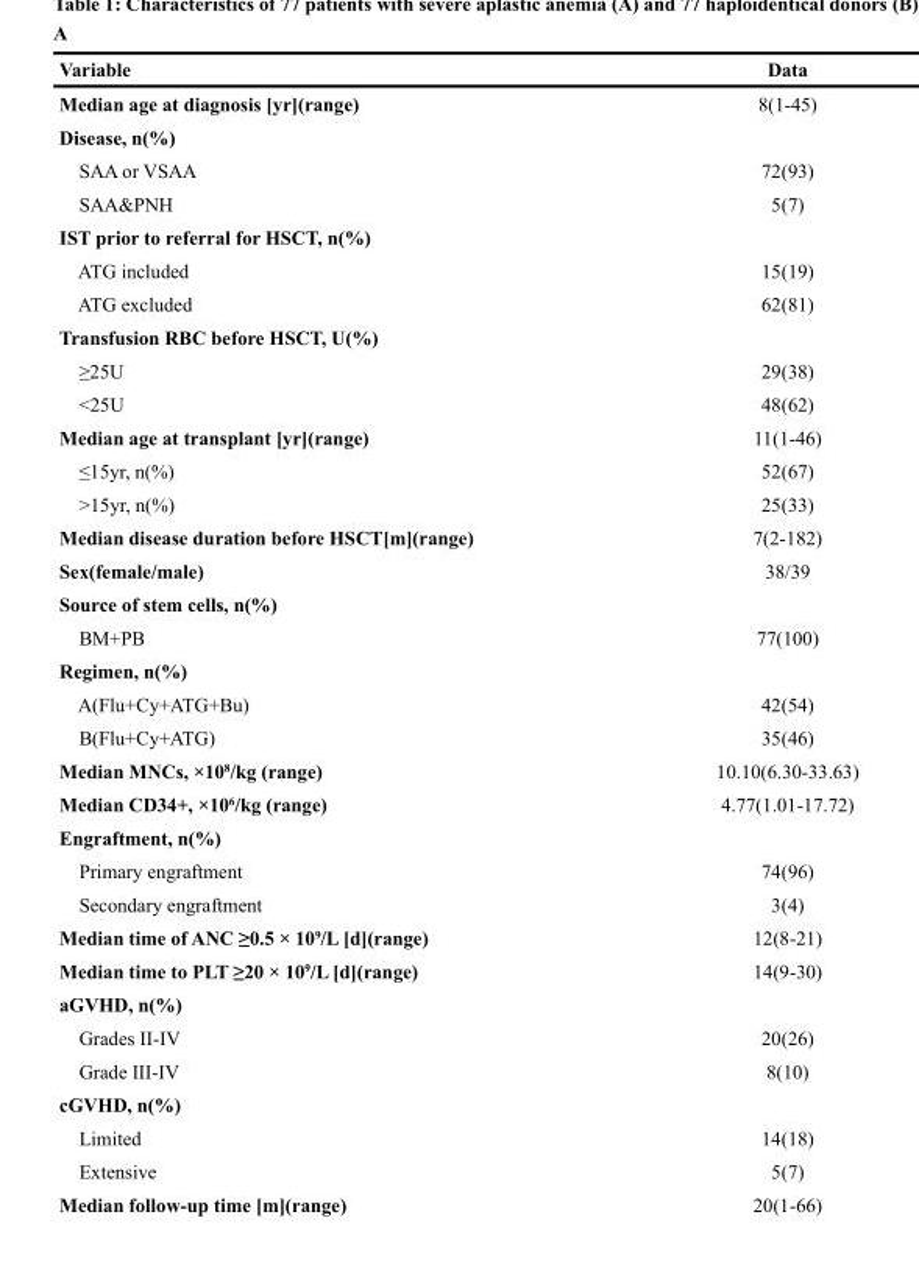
<table><thead><tr><td>Variable</td><td>Data</td></tr></thead><tbody><tr><td>Median age at diagnosis [yr](range)</td><td>8(1-45)</td></tr><tr><td colspan="2">Disease, n(%)</td></tr><tr><td>SAA or VSAA</td><td>72(93)</td></tr><tr><td>SAA&amp;PNH</td><td>5(7)</td></tr><tr><td colspan="2">IST prior to referral for HSCT, n(%)</td></tr><tr><td>ATG included</td><td>15(19)</td></tr><tr><td>ATG excluded</td><td>62(81)</td></tr><tr><td colspan="2">Transfusion RBC before HSCT, U(%)</td></tr><tr><td>≥25U</td><td>29(38)</td></tr><tr><td>&lt;25U</td><td>48(62)</td></tr><tr><td>Median age at transplant [yr](range)</td><td>11(1-46)</td></tr><tr><td>≤15yr, n(%)</td><td>52(67)</td></tr><tr><td>&gt;15yr, n(%)</td><td>25(33)</td></tr><tr><td>Median disease duration before HSCT[m](range)</td><td>7(2-182)</td></tr><tr><td>Sex(female/male)</td><td>38/39</td></tr><tr><td colspan="2">Source of stem cells, n(%)</td></tr><tr><td>BM+PB</td><td>77(100)</td></tr><tr><td colspan="2">Regimen, n(%)</td></tr><tr><td>A(Flu+Cy+ATG+Bu)</td><td>42(54)</td></tr><tr><td>B(Flu+Cy+ATG)</td><td>35(46)</td></tr><tr><td>Median MNCs, ×10<sup>8</sup>/kg (range)</td><td>10.10(6.30-33.63)</td></tr><tr><td>Median CD34+, ×10<sup>6</sup>/kg (range)</td><td>4.77(1.01-17.72)</td></tr><tr><td colspan="2">Engraftment, n(%)</td></tr><tr><td>Primary engraftment</td><td>74(96)</td></tr><tr><td>Secondary engraftment</td><td>3(4)</td></tr><tr><td>Median time of ANC ≥0.5 × 10<sup>9</sup>/L [d](range)</td><td>12(8-21)</td></tr><tr><td>Median time to PLT ≥20 × 10<sup>9</sup>/L [d](range)</td><td>14(9-30)</td></tr><tr><td colspan="2">aGVHD, n(%)</td></tr><tr><td>Grades II-IV</td><td>20(26)</td></tr><tr><td>Grade III-IV</td><td>8(10)</td></tr><tr><td colspan="2">cGVHD, n(%)</td></tr><tr><td>Limited</td><td>14(18)</td></tr><tr><td>Extensive</td><td>5(7)</td></tr><tr><td>Median follow-up time [m](range)</td><td>20(1-66)</td></tr></tbody></table>